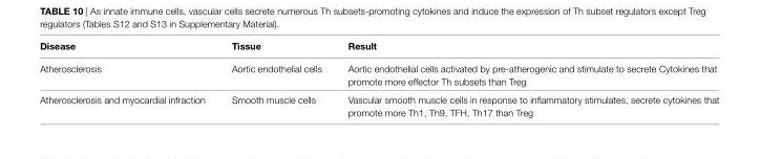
<table><thead><tr><td>Disease</td><td>Tissue</td><td>result</td></tr></thead><tbody><tr><td>Atherosclerosis</td><td>Aortic endothelial cells</td><td>Aortic endothelial cells activated by pre-atherogenic and stimulate to secrete Cytokines that promote more effector Th subsets than Treg</td></tr><tr><td>Atherosclerosis and myocardial infraction</td><td>Smooth muscle cells</td><td>Vascular smooth muscle cells in response to inflammatory stimulates, secrete cytokines that promote more Th1, Th9, TFH, Th17 than Treg</td></tr></tbody></table>